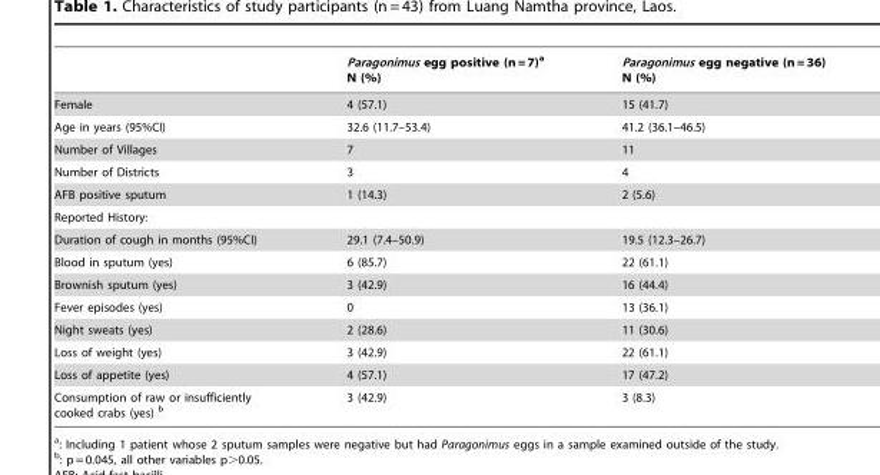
<table><thead><tr><td></td><td>Paragonimus egg positive (n = 7)<sup>a</sup> N (%)</td><td>Paragonimus egg negative (n = 36) N (%)</td></tr></thead><tbody><tr><td>Female</td><td>4 (57.1)</td><td>15 (41.7)</td></tr><tr><td>Age in years (95%CI)</td><td>32.6 (11.7–53.4)</td><td>41.2 (36.1–46.5)</td></tr><tr><td>Number of Villages</td><td>7</td><td>11</td></tr><tr><td>Number of Districts</td><td>3</td><td>4</td></tr><tr><td>AFB positive sputum</td><td>1 (14.3)</td><td>2 (5.6)</td></tr><tr><td colspan="3">Reported History:</td></tr><tr><td>Duration of cough in months (95%CI)</td><td>29.1 (7.4–50.9)</td><td>19.5 (12.3–26.7)</td></tr><tr><td>Blood in sputum (yes)</td><td>6 (85.7)</td><td>22 (61.1)</td></tr><tr><td>Brownish sputum (yes)</td><td>3 (42.9)</td><td>16 (44.4)</td></tr><tr><td>Fever episodes (yes)</td><td>0</td><td>13 (36.1)</td></tr><tr><td>Night sweats (yes)</td><td>2 (28.6)</td><td>11 (30.6)</td></tr><tr><td>Loss of weight (yes)</td><td>3 (42.9)</td><td>22 (61.1)</td></tr><tr><td>Loss of appetite (yes)</td><td>4 (57.1)</td><td>17 (47.2)</td></tr><tr><td>Consumption of raw or insufficiently cooked crabs (yes) b</td><td>3 (42.9)</td><td>3 (8.3)</td></tr></tbody></table>